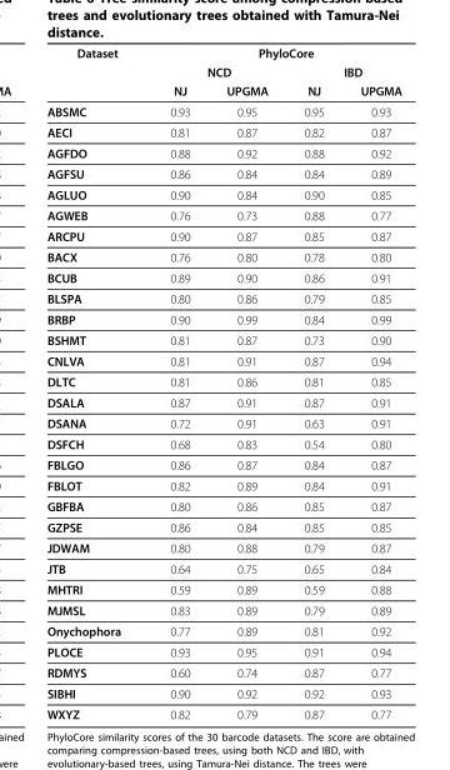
<table><thead><tr><td rowspan="3">Dataset</td><td colspan="4">PhyloCore</td></tr><tr><td colspan="2">NCD</td><td colspan="2">IBD</td></tr><tr><td>NJ</td><td>UPGMA</td><td>NJ</td><td>UPGMA</td></tr></thead><tbody><tr><td>ABSMC</td><td>0.93</td><td>0.95</td><td>0.95</td><td>0.93</td></tr><tr><td>AECI</td><td>0.81</td><td>0.87</td><td>0.82</td><td>0.87</td></tr><tr><td>AGFDO</td><td>0.88</td><td>0.92</td><td>0.88</td><td>0.92</td></tr><tr><td>AGFSU</td><td>0.86</td><td>0.84</td><td>0.84</td><td>0.89</td></tr><tr><td>AGLUO</td><td>0.90</td><td>0.84</td><td>0.90</td><td>0.85</td></tr><tr><td>AGWEB</td><td>0.76</td><td>0.73</td><td>0.88</td><td>0.77</td></tr><tr><td>ARCPU</td><td>0.90</td><td>0.87</td><td>0.85</td><td>0.87</td></tr><tr><td>BACX</td><td>0.76</td><td>0.80</td><td>0.78</td><td>0.80</td></tr><tr><td>BCUB</td><td>0.89</td><td>0.90</td><td>0.86</td><td>0.91</td></tr><tr><td>BLSPA</td><td>0.80</td><td>0.86</td><td>0.79</td><td>0.85</td></tr><tr><td>BRBP</td><td>0.90</td><td>0.99</td><td>0.84</td><td>0.99</td></tr><tr><td>BSHMT</td><td>0.81</td><td>0.87</td><td>0.73</td><td>0.90</td></tr><tr><td>CNLVA</td><td>0.81</td><td>0.91</td><td>0.87</td><td>0.94</td></tr><tr><td>DLTC</td><td>0.81</td><td>0.86</td><td>0.81</td><td>0.85</td></tr><tr><td>DSALA</td><td>0.87</td><td>0.91</td><td>0.87</td><td>0.91</td></tr><tr><td>DSANA</td><td>0.72</td><td>0.91</td><td>0.63</td><td>0.91</td></tr><tr><td>DSFCH</td><td>0.68</td><td>0.83</td><td>0.54</td><td>0.80</td></tr><tr><td>FBLGO</td><td>0.86</td><td>0.87</td><td>0.84</td><td>0.87</td></tr><tr><td>FBLOT</td><td>0.82</td><td>0.89</td><td>0.84</td><td>0.91</td></tr><tr><td>GBFBA</td><td>0.80</td><td>0.86</td><td>0.85</td><td>0.87</td></tr><tr><td>GZPSE</td><td>0.86</td><td>0.84</td><td>0.85</td><td>0.85</td></tr><tr><td>JDWAM</td><td>0.80</td><td>0.88</td><td>0.79</td><td>0.87</td></tr><tr><td>JTB</td><td>0.64</td><td>0.75</td><td>0.65</td><td>0.84</td></tr><tr><td>MHTRI</td><td>0.59</td><td>0.89</td><td>0.59</td><td>0.88</td></tr><tr><td>MJMSL</td><td>0.83</td><td>0.89</td><td>0.79</td><td>0.89</td></tr><tr><td>Onychophora</td><td>0.77</td><td>0.89</td><td>0.81</td><td>0.92</td></tr><tr><td>PLOCE</td><td>0.93</td><td>0.95</td><td>0.91</td><td>0.94</td></tr><tr><td>RDMYS</td><td>0.60</td><td>0.74</td><td>0.87</td><td>0.77</td></tr><tr><td>SIBHI</td><td>0.90</td><td>0.92</td><td>0.92</td><td>0.93</td></tr><tr><td>WXYZ</td><td>0.82</td><td>0.79</td><td>0.87</td><td>0.77</td></tr></tbody></table>